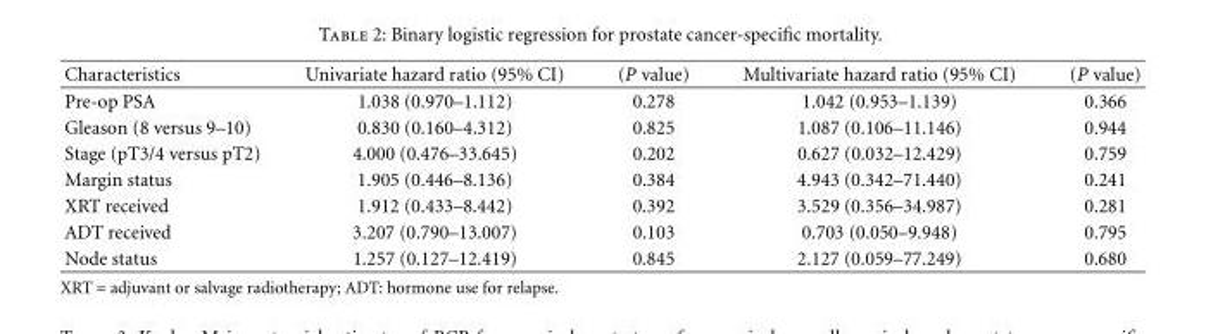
<table><thead><tr><td>Characteristics</td><td>Univariate hazard ratio (95% CI)</td><td>(P value)</td><td>Multivariate hazard ratio (95% CI)</td><td>(P value)</td></tr></thead><tbody><tr><td>Pre-op PSA</td><td>1.038 (0.970–1.112)</td><td>0.278</td><td>1.042 (0.953–1.139)</td><td>0.366</td></tr><tr><td>Gleason (8 versus 9–10)</td><td>0.830 (0.160–4.312)</td><td>0.825</td><td>1.087 (0.106–11.146)</td><td>0.944</td></tr><tr><td>Stage (pT3/4 versus pT2)</td><td>4.000 (0.476–33.645)</td><td>0.202</td><td>0.627 (0.032–12.429)</td><td>0.759</td></tr><tr><td>Margin status</td><td>1.905 (0.446–8.136)</td><td>0.384</td><td>4.943 (0.342–71.440)</td><td>0.241</td></tr><tr><td>XRT received</td><td>1.912 (0.433–8.442)</td><td>0.392</td><td>3.529 (0.356–34.987)</td><td>0.281</td></tr><tr><td>ADT received</td><td>3.207 (0.790–13.007)</td><td>0.103</td><td>0.703 (0.050–9.948)</td><td>0.795</td></tr><tr><td>Node status</td><td>1.257 (0.127–12.419)</td><td>0.845</td><td>2.127 (0.059–77.249)</td><td>0.680</td></tr></tbody></table>